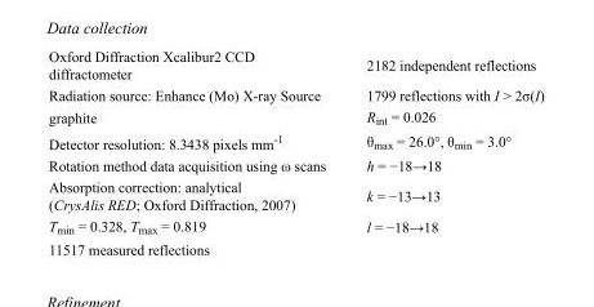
<table><tbody><tr><td>Oxford Diffraction Xcalibur2 CCD diffractometer</td><td>2182 independent reflections</td></tr><tr><td>Radiation source: Enhance (Mo) X-ray Source</td><td>1799 reflections with I &gt; 2σ(I)</td></tr><tr><td>graphite</td><td>R<sub>int</sub> = 0.026</td></tr><tr><td>Detector resolution: 8.3438 pixels mm<sup>-1</sup></td><td>θ<sub>max</sub> = 26.0°, θ<sub>min</sub> = 3.0°</td></tr><tr><td>Rotation method data acquisition using ω scans</td><td>h = −18→18</td></tr><tr><td>Absorption correction: analytical (CrysAlis RED; Oxford Diffraction, 2007)</td><td>k = −13→13</td></tr><tr><td>T<sub>min</sub> = 0.328, T<sub>max</sub> = 0.819</td><td>l = −18→18</td></tr><tr><td>11517 measured reflections</td><td></td></tr></tbody></table>